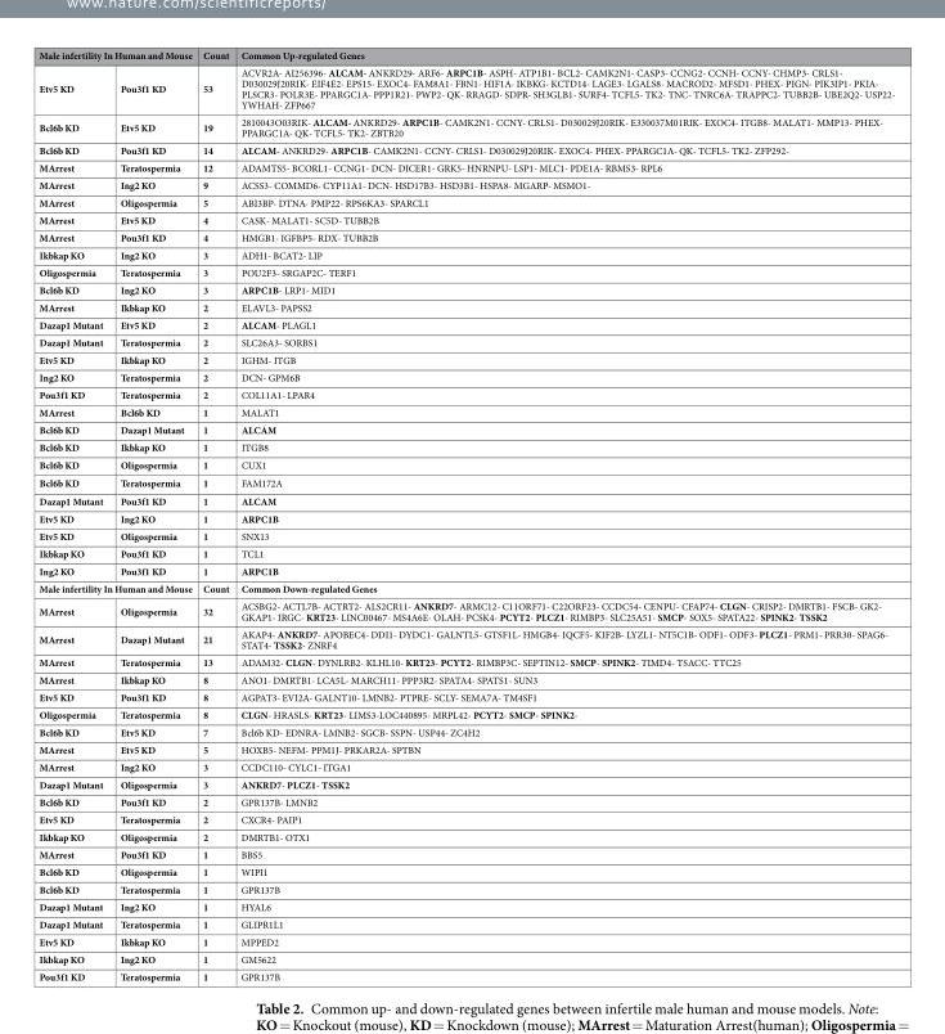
<table><thead><tr><td colspan="2">Male infertility In Human and Mouse</td><td rowspan="2">Count 53</td><td rowspan="2">Common Up-regulated Genes ACVR2A- AI256396- ALCAM- ANKRD29- ARF6- ARPC1B- ASPH- ATP1B1- BCL2- CAMK2N1- CASP3- CCNG2- CCNH- CCNY- CHMP3- CRLS1- D030029J20RIK- EIF4E2- EPS15- EXOC4- FAM8A1- FBN1- HIF1A- IKBKG- KCTD14- LAGE3- LGALS8- MACROD2- MFSD1- PHEX- PIGN- PIK3IP1- PKIA- PLSCR3- POLR3E- PPARGC1A- PPP1R21- PWP2- QK- RRAGD- SDPR- SH3GLB1- SURF4- TCFL5- TK2- TNC- TNRC6A- TRAPPC2- TUBB2B- UBE2Q2- USP22- YWHAH- ZFP667</td></tr><tr><td>Etv5 KD</td><td>Pou3f1 KD</td></tr></thead><tbody><tr><td>Bcl6b KD</td><td>Etv5 KD</td><td>19</td><td>2810043O03RIK- ALCAM- ANKRD29- ARPC1B- CAMK2N1- CCNY- CRLS1- D030029J20RIK- E330037M01RIK- EXOC4- ITGB8- MALAT1- MMP13- PHEX- PPARGC1A- QK- TCFL5- TK2- ZBTB20</td></tr><tr><td>Bcl6b KD</td><td>Pou3f1 KD</td><td>14</td><td>ALCAM- ANKRD29- ARPC1B- CAMK2N1- CCNY- CRLS1- D030029J20RIK- EXOC4- PHEX- PPARGC1A- QK- TCFL5- TK2- ZFP292-</td></tr><tr><td>MArrest</td><td>Teratospermia</td><td>12</td><td>ADAMTS5- BCORL1- CCNG1- DCN- DICER1- GRK5- HNRNPU- LSP1- MLC1- PDE1A- RBMS3- RPL6</td></tr><tr><td>MArrest</td><td>Ing2 KO</td><td>9</td><td>ACSS3- COMMD6- CYP11A1- DCN- HSD17B3- HSD3B1- HSPA8- MGARP- MSMO1-</td></tr><tr><td>MArrest</td><td>Oligospermia</td><td>5</td><td>ABI3BP- DTNA- PMP22- RPS6KA3- SPARCL1</td></tr><tr><td>MArrest</td><td>Etv5 KD</td><td>4</td><td>CASK- MALAT1- SC5D- TUBB2B</td></tr><tr><td>MArrest</td><td>Pou3f1 KD</td><td>4</td><td>HMGB1- IGFBP5- RDX- TUBB2B</td></tr><tr><td>Ikbkap KO</td><td>Ing2 KO</td><td>3</td><td>ADH1- BCAT2- LIP</td></tr><tr><td>Oligospermia</td><td>Teratospermia</td><td>3</td><td>POU2F3- SRGAP2C- TERF1</td></tr><tr><td>Bcl6b KD</td><td>Ing2 KO</td><td>3</td><td>ARPC1B- LRP1- MID1</td></tr><tr><td>MArrest</td><td>Ikbkap KO</td><td>2</td><td>ELAVL3- PAPSS2</td></tr><tr><td>Dazap1 Mutant</td><td>Etv5 KD</td><td>2</td><td>ALCAM- PLAGL1</td></tr><tr><td>Dazap1 Mutant</td><td>Teratospermia</td><td>2</td><td>SLC26A3- SORBS1</td></tr><tr><td>Etv5 KD</td><td>Ikbkap KO</td><td>2</td><td>IGHM- ITGB</td></tr><tr><td>Ing2 KO</td><td>Teratospermia</td><td>2</td><td>DCN- GPM6B</td></tr><tr><td>Pou3f1 KD</td><td>Teratospermia</td><td>2</td><td>COL11A1- LPAR4</td></tr><tr><td>MArrest</td><td>Bcl6b KD</td><td>1</td><td>MALAT1</td></tr><tr><td>Bcl6b KD</td><td>Dazap1 Mutant</td><td>1</td><td>ALCAM</td></tr><tr><td>Bcl6b KD</td><td>Ikbkap KO</td><td>1</td><td>ITGB8</td></tr><tr><td>Bcl6b KD</td><td>Oligospermia</td><td>1</td><td>CUX1</td></tr><tr><td>Bcl6b KD</td><td>Teratospermia</td><td>1</td><td>FAM172A</td></tr><tr><td>Dazap1 Mutant</td><td>Pou3f1 KD</td><td>1</td><td>ALCAM</td></tr><tr><td>Etv5 KD</td><td>Ing2 KO</td><td>1</td><td>ARPC1B</td></tr><tr><td>Etv5 KD</td><td>Oligospermia</td><td>1</td><td>SNX13</td></tr><tr><td>Ikbkap KO</td><td>Pou3f1 KD</td><td>1</td><td>TCL1</td></tr><tr><td>Ing2 KO</td><td>Pou3f1 KD</td><td>1</td><td>ARPC1B</td></tr><tr><td colspan="2">Male infertility In Human and Mouse</td><td>Count</td><td>Common Down-regulated Genes</td></tr><tr><td>MArrest</td><td>Oligospermia</td><td>32</td><td>ACSBG2- ACTL7B- ACTRT2- ALS2CR11- ANKRD7- ARMC12- C11ORF71- C22ORF23- CCDC54- CENPU- CFAP74- CLGN- CRISP2- DMRTB1- FSCB- GK2- GKAP1- IRGC- KRT23- LINC00467- MS4A6E- OLAH- PCSK4- PCYT2- PLCZ1- RIMBP3- SLC25A51- SMCP- SOX5- SPATA22- SPINK2- TSSK2</td></tr><tr><td>MArrest</td><td>Dazap1 Mutant</td><td>21</td><td>AKAP4- ANKRD7- APOBEC4- DDI1- DYDC1- GALNTL5- GTSF1L- HMGB4- IQCF5- KIF2B- LYZL1- NT5C1B- ODF1- ODF3- PLCZ1- PRM1- PRR30- SPAG6- STAT4- TSSK2- ZNRF4</td></tr><tr><td>MArrest</td><td>Teratospermia</td><td>13</td><td>ADAM32- CLGN- DYNLRB2- KLHL10- KRT23- PCYT2- RIMBP3C- SEPTIN12- SMCP- SPINK2- TIMD4- TSACC- TTC25</td></tr><tr><td>MArrest</td><td>Ikbkap KO</td><td>8</td><td>ANO1- DMRTB1- LCA5L- MARCH11- PPP3R2- SPATA4- SPATS1- SUN3</td></tr><tr><td>Etv5 KD</td><td>Pou3f1 KD</td><td>8</td><td>AGPAT3- EVI2A- GALNT10- LMNB2- PTPRE- SCLY- SEMA7A- TM4SF1</td></tr><tr><td>Oligospermia</td><td>Teratospermia</td><td>8</td><td>CLGN- HRASLS- KRT23- LIMS3-LOC440895- MRPL42- PCYT2- SMCP- SPINK2-</td></tr><tr><td>Bcl6b KD</td><td>Etv5 KD</td><td>7</td><td>Bcl6b KD- EDNRA- LMNB2- SGCB- SSPN- USP44- ZC4H2</td></tr><tr><td>MArrest</td><td>Etv5 KD</td><td>5</td><td>HOXB5- NEFM- PPM1J- PRKAR2A- SPTBN</td></tr><tr><td>MArrest</td><td>Ing2 KO</td><td>3</td><td>CCDC110- CYLC1- ITGA1</td></tr><tr><td>Dazap1 Mutant</td><td>Oligospermia</td><td>3</td><td>ANKRD7- PLCZ1- TSSK2</td></tr><tr><td>Bcl6b KD</td><td>Pou3f1 KD</td><td>2</td><td>GPR137B- LMNB2</td></tr><tr><td>Etv5 KD</td><td>Teratospermia</td><td>2</td><td>CXCR4- PAIP1</td></tr><tr><td>Ikbkap KO</td><td>Oligospermia</td><td>2</td><td>DMRTB1- OTX1</td></tr><tr><td>MArrest</td><td>Pou3f1 KD</td><td>1</td><td>BBS5</td></tr><tr><td>Bcl6b KD</td><td>Oligospermia</td><td>1</td><td>WIPI1</td></tr><tr><td>Bcl6b KD</td><td>Teratospermia</td><td>1</td><td>GPR137B</td></tr><tr><td>Dazap1 Mutant</td><td>Ing2 KO</td><td>1</td><td>HYAL6</td></tr><tr><td>Dazap1 Mutant</td><td>Teratospermia</td><td>1</td><td>GLIPR1L1</td></tr><tr><td>Etv5 KD</td><td>Ikbkap KO</td><td>1</td><td>MPPED2</td></tr><tr><td>Ikbkap KO</td><td>Ing2 KO</td><td>1</td><td>GM5622</td></tr><tr><td>Pou3f1 KD</td><td>Teratospermia</td><td>1</td><td>GPR137B</td></tr></tbody></table>